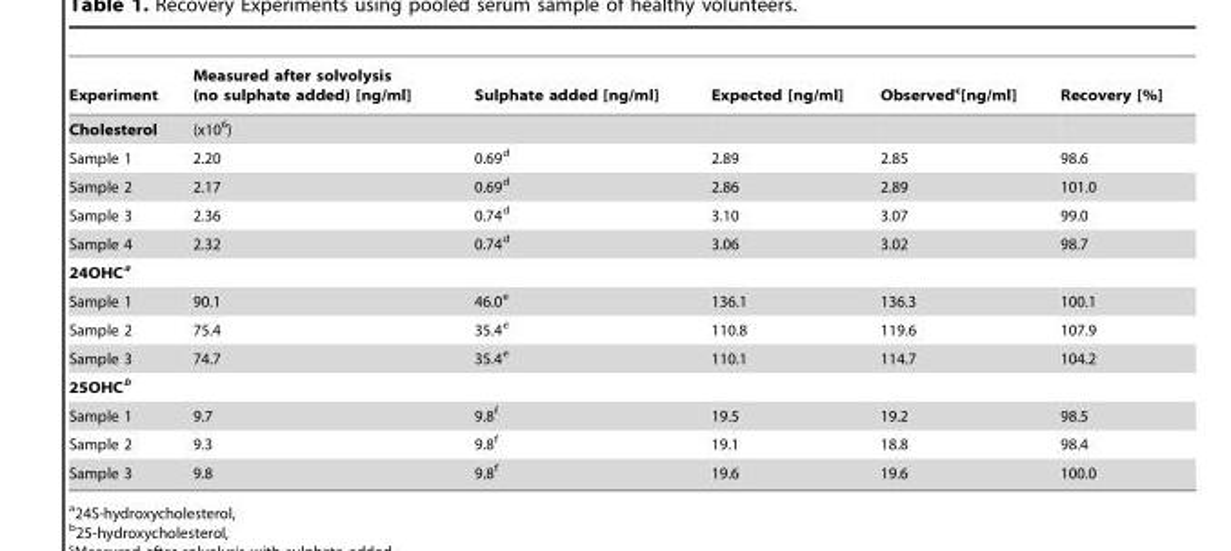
<table><thead><tr><td>Experiment</td><td>Measured after solvolysis (no sulphate added) [ng/ml]</td><td>Sulphate added [ng/ml]</td><td>Expected [ng/ml]</td><td>Observed<sup>c</sup>[ng/ml]</td><td>Recovery [%]</td></tr></thead><tbody><tr><td>Cholesterol</td><td>(x10<sup>6</sup>)</td><td></td><td></td><td></td><td></td></tr><tr><td>Sample 1</td><td>2.20</td><td>0.69<sup>d</sup></td><td>2.89</td><td>2.85</td><td>98.6</td></tr><tr><td>Sample 2</td><td>2.17</td><td>0.69<sup>d</sup></td><td>2.86</td><td>2.89</td><td>101.0</td></tr><tr><td>Sample 3</td><td>2.36</td><td>0.74<sup>d</sup></td><td>3.10</td><td>3.07</td><td>99.0</td></tr><tr><td>Sample 4</td><td>2.32</td><td>0.74<sup>d</sup></td><td>3.06</td><td>3.02</td><td>98.7</td></tr><tr><td colspan="6">24OHCa</td></tr><tr><td>Sample 1</td><td>90.1</td><td>46.0<sup>e</sup></td><td>136.1</td><td>136.3</td><td>100.1</td></tr><tr><td>Sample 2</td><td>75.4</td><td>35.4<sup>e</sup></td><td>110.8</td><td>119.6</td><td>107.9</td></tr><tr><td>Sample 3</td><td>74.7</td><td>35.4<sup>e</sup></td><td>110.1</td><td>114.7</td><td>104.2</td></tr><tr><td colspan="6">25OHCb</td></tr><tr><td>Sample 1</td><td>9.7</td><td>9.8<sup>f</sup></td><td>19.5</td><td>19.2</td><td>98.5</td></tr><tr><td>Sample 2</td><td>9.3</td><td>9.8<sup>f</sup></td><td>19.1</td><td>18.8</td><td>98.4</td></tr><tr><td>Sample 3</td><td>9.8</td><td>9.8<sup>f</sup></td><td>19.6</td><td>19.6</td><td>100.0</td></tr></tbody></table>